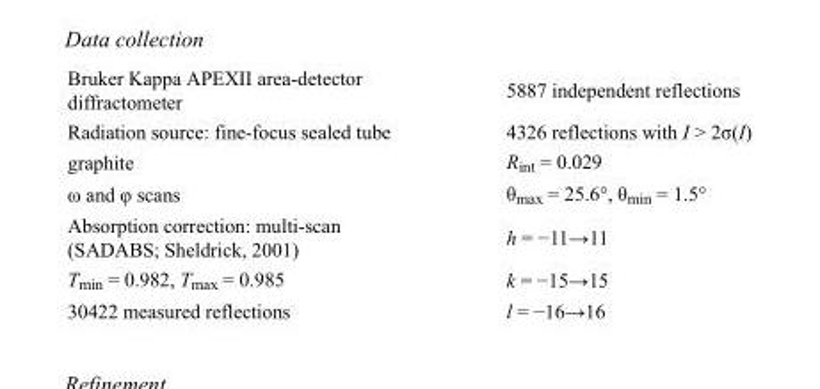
<table><tbody><tr><td>Bruker Kappa APEXII area-detector diffractometer</td><td>5887 independent reflections</td></tr><tr><td>Radiation source: fine-focus sealed tube</td><td>4326 reflections with I &gt; 2σ(I)</td></tr><tr><td>graphite</td><td>R<sub>int</sub> = 0.029</td></tr><tr><td>ω and φ scans</td><td>θ<sub>max</sub> = 25.6°, θ<sub>min</sub> = 1.5°</td></tr><tr><td>Absorption correction: multi-scan (SADABS; Sheldrick, 2001)</td><td>h = −11→11</td></tr><tr><td>T<sub>min</sub> = 0.982, T<sub>max</sub> = 0.985</td><td>k = −15→15</td></tr><tr><td>30422 measured reflections</td><td>l = −16→16</td></tr></tbody></table>